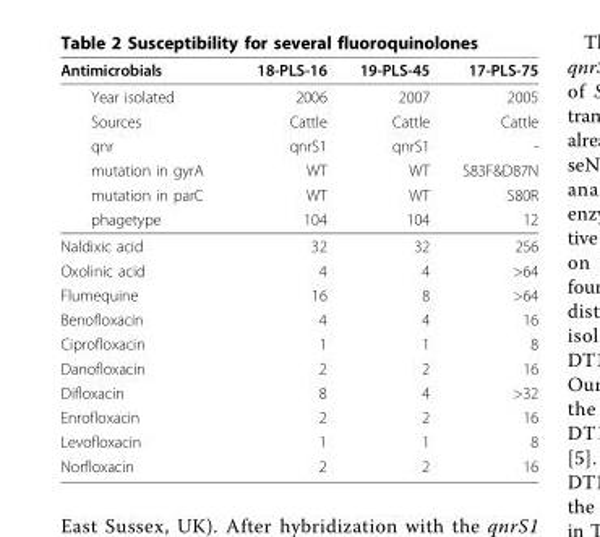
<table><thead><tr><td>Antimicrobials</td><td>18-PLS-16</td><td>19-PLS-45</td><td>17-PLS-75</td></tr></thead><tbody><tr><td>Year isolated</td><td>2006</td><td>2007</td><td>2005</td></tr><tr><td>Sources</td><td>Cattle</td><td>Cattle</td><td>Cattle</td></tr><tr><td>qnr</td><td>qnrS1</td><td>qnrS1</td><td>-</td></tr><tr><td>mutation in gyrA</td><td>WT</td><td>WT</td><td>S83F&amp;D87N</td></tr><tr><td>mutation in parC</td><td>WT</td><td>WT</td><td>S80R</td></tr><tr><td>phagetype</td><td>104</td><td>104</td><td>12</td></tr><tr><td>Naldixic acid</td><td>32</td><td>32</td><td>256</td></tr><tr><td>Oxolinic acid</td><td>4</td><td>4</td><td>&gt;64</td></tr><tr><td>Flumequine</td><td>16</td><td>8</td><td>&gt;64</td></tr><tr><td>Benofloxacin</td><td>4</td><td>4</td><td>16</td></tr><tr><td>Ciprofloxacin</td><td>1</td><td>1</td><td>8</td></tr><tr><td>Danofloxacin</td><td>2</td><td>2</td><td>16</td></tr><tr><td>Difloxacin</td><td>8</td><td>4</td><td>&gt;32</td></tr><tr><td>Enrofloxacin</td><td>2</td><td>2</td><td>16</td></tr><tr><td>Levofloxacin</td><td>1</td><td>1</td><td>8</td></tr><tr><td>Norfloxacin</td><td>2</td><td>2</td><td>16</td></tr></tbody></table>